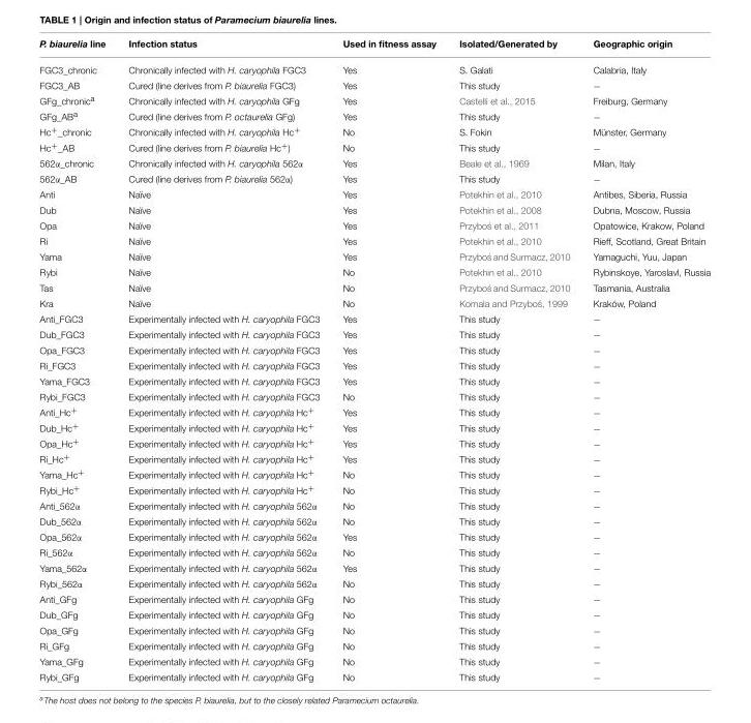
<table><thead><tr><td>P. biaurelia line</td><td>Infection status</td><td>Used in fitness assay</td><td>Isolated/Generated by</td><td>Geographic origin</td></tr></thead><tbody><tr><td>FGC3_chronic</td><td>Chronically infected with H. caryophila FGC3</td><td>Yes</td><td>S. Galati</td><td>Calabria, Italy</td></tr><tr><td>FGC3_AB</td><td>Cured (line derives from P. biaurelia FGC3)</td><td>Yes</td><td>This study</td><td>−</td></tr><tr><td>GFg_chronic<sup>a</sup></td><td>Chronically infected with H. caryophila GFg</td><td>Yes</td><td>Castelli et al., 2015</td><td>Freiburg, Germany</td></tr><tr><td>GFg_AB<sup>a</sup></td><td>Cured (line derives from P. octaurelia GFg)</td><td>Yes</td><td>This study</td><td>−</td></tr><tr><td>Hc<sup>+</sup>_chronic</td><td>Chronically infected with H. caryophila Hc<sup>+</sup></td><td>No</td><td>S. Fokin</td><td>Münster, Germany</td></tr><tr><td>Hc<sup>+</sup>_AB</td><td>Cured (line derives from P. biaurelia Hc<sup>+</sup>)</td><td>No</td><td>This study</td><td>−</td></tr><tr><td>562α_chronic</td><td>Chronically infected with H. caryophila 562α</td><td>Yes</td><td>Beale et al., 1969</td><td>Milan, Italy</td></tr><tr><td>562α_AB</td><td>Cured (line derives from P. biaurelia 562α)</td><td>Yes</td><td>This study</td><td>−</td></tr><tr><td>Anti</td><td>Naïve</td><td>Yes</td><td>Potekhin et al., 2010</td><td>Antibes, Siberia, Russia</td></tr><tr><td>Dub</td><td>Naïve</td><td>Yes</td><td>Potekhin et al., 2008</td><td>Dubna, Moscow, Russia</td></tr><tr><td>Opa</td><td>Naïve</td><td>Yes</td><td>Przybo´s et al., 2011</td><td>Opatowice, Krakow, Poland</td></tr><tr><td>Ri</td><td>Naïve</td><td>Yes</td><td>Potekhin et al., 2010</td><td>Rieff, Scotland, Great Britain</td></tr><tr><td>Yama</td><td>Naïve</td><td>Yes</td><td>Przybo´s and Surmacz, 2010</td><td>Yamaguchi, Yuu, Japan</td></tr><tr><td>Rybi</td><td>Naïve</td><td>No</td><td>Potekhin et al., 2010</td><td>Rybinskoye, Yaroslavl, Russia</td></tr><tr><td>Tas</td><td>Naïve</td><td>No</td><td>Przybo´s and Surmacz, 2010</td><td>Tasmania, Australia</td></tr><tr><td>Kra</td><td>Naïve</td><td>No</td><td>Komala and Przybo´s, 1999</td><td>Kraków, Poland</td></tr><tr><td>Anti_FGC3</td><td>Experimentally infected with H. caryophila FGC3</td><td>Yes</td><td>This study</td><td>−</td></tr><tr><td>Dub_FGC3</td><td>Experimentally infected with H. caryophila FGC3</td><td>Yes</td><td>This study</td><td>−</td></tr><tr><td>Opa_FGC3</td><td>Experimentally infected with H. caryophila FGC3</td><td>Yes</td><td>This study</td><td>−</td></tr><tr><td>Ri_FGC3</td><td>Experimentally infected with H. caryophila FGC3</td><td>Yes</td><td>This study</td><td>−</td></tr><tr><td>Yama_FGC3</td><td>Experimentally infected with H. caryophila FGC3</td><td>Yes</td><td>This study</td><td>−</td></tr><tr><td>Rybi_FGC3</td><td>Experimentally infected with H. caryophila FGC3</td><td>No</td><td>This study</td><td>−</td></tr><tr><td>Anti_Hc<sup>+</sup></td><td>Experimentally infected with H. caryophila Hc<sup>+</sup></td><td>Yes</td><td>This study</td><td>−</td></tr><tr><td>Dub_Hc<sup>+</sup></td><td>Experimentally infected with H. caryophila Hc<sup>+</sup></td><td>Yes</td><td>This study</td><td>−</td></tr><tr><td>Opa_Hc<sup>+</sup></td><td>Experimentally infected with H. caryophila Hc<sup>+</sup></td><td>Yes</td><td>This study</td><td>−</td></tr><tr><td>Ri_Hc<sup>+</sup></td><td>Experimentally infected with H. caryophila Hc<sup>+</sup></td><td>Yes</td><td>This study</td><td>−</td></tr><tr><td>Yama_Hc<sup>+</sup></td><td>Experimentally infected with H. caryophila Hc<sup>+</sup></td><td>No</td><td>This study</td><td>−</td></tr><tr><td>Rybi_Hc<sup>+</sup></td><td>Experimentally infected with H. caryophila Hc<sup>+</sup></td><td>No</td><td>This study</td><td>−</td></tr><tr><td>Anti_562α</td><td>Experimentally infected with H. caryophila 562α</td><td>No</td><td>This study</td><td>−</td></tr><tr><td>Dub_562α</td><td>Experimentally infected with H. caryophila 562α</td><td>No</td><td>This study</td><td>−</td></tr><tr><td>Opa_562α</td><td>Experimentally infected with H. caryophila 562α</td><td>Yes</td><td>This study</td><td>−</td></tr><tr><td>Ri_562α</td><td>Experimentally infected with H. caryophila 562α</td><td>No</td><td>This study</td><td>−</td></tr><tr><td>Yama_562α</td><td>Experimentally infected with H. caryophila 562α</td><td>Yes</td><td>This study</td><td>−</td></tr><tr><td>Rybi_562α</td><td>Experimentally infected with H. caryophila 562α</td><td>No</td><td>This study</td><td>−</td></tr><tr><td>Anti_GFg</td><td>Experimentally infected with H. caryophila GFg</td><td>No</td><td>This study</td><td>−</td></tr><tr><td>Dub_GFg</td><td>Experimentally infected with H. caryophila GFg</td><td>No</td><td>This study</td><td>−</td></tr><tr><td>Opa_GFg</td><td>Experimentally infected with H. caryophila GFg</td><td>No</td><td>This study</td><td>−</td></tr><tr><td>Ri_GFg</td><td>Experimentally infected with H. caryophila GFg</td><td>No</td><td>This study</td><td>−</td></tr><tr><td>Yama_GFg</td><td>Experimentally infected with H. caryophila GFg</td><td>No</td><td>This study</td><td>−</td></tr><tr><td>Rybi_GFg</td><td>Experimentally infected with H. caryophila GFg</td><td>No</td><td>This study</td><td>−</td></tr></tbody></table>